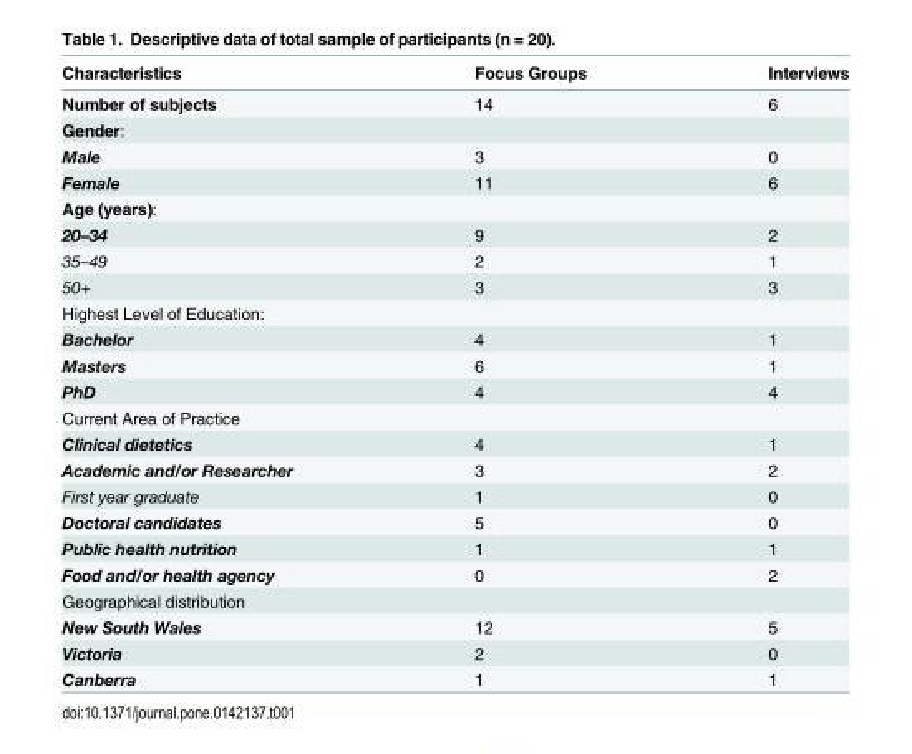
<table><thead><tr><td>Characteristics</td><td>Focus Groups</td><td>Interviews</td></tr></thead><tbody><tr><td>Number of subjects</td><td>14</td><td>6</td></tr><tr><td colspan="3">Gender:</td></tr><tr><td>Male</td><td>3</td><td>0</td></tr><tr><td>Female</td><td>11</td><td>6</td></tr><tr><td colspan="3">Age (years):</td></tr><tr><td>20–34</td><td>9</td><td>2</td></tr><tr><td>35–49</td><td>2</td><td>1</td></tr><tr><td>50+</td><td>3</td><td>3</td></tr><tr><td colspan="3">Highest Level of Education:</td></tr><tr><td>Bachelor</td><td>4</td><td>1</td></tr><tr><td>Masters</td><td>6</td><td>1</td></tr><tr><td>PhD</td><td>4</td><td>4</td></tr><tr><td colspan="3">Current Area of Practice</td></tr><tr><td>Clinical dietetics</td><td>4</td><td>1</td></tr><tr><td>Academic and/or Researcher</td><td>3</td><td>2</td></tr><tr><td>First year graduate</td><td>1</td><td>0</td></tr><tr><td>Doctoral candidates</td><td>5</td><td>0</td></tr><tr><td>Public health nutrition</td><td>1</td><td>1</td></tr><tr><td>Food and/or health agency</td><td>0</td><td>2</td></tr><tr><td colspan="3">Geographical distribution</td></tr><tr><td>New South Wales</td><td>12</td><td>5</td></tr><tr><td>Victoria</td><td>2</td><td>0</td></tr><tr><td>Canberra</td><td>1</td><td>1</td></tr></tbody></table>